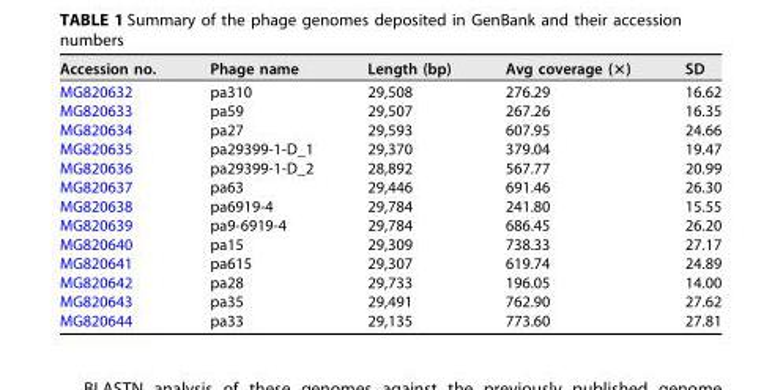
<table><thead><tr><td>Accession no.</td><td>Phage name</td><td>Length (bp)</td><td>Avg coverage (×)</td><td>SD</td></tr></thead><tbody><tr><td>MG820632</td><td>pa310</td><td>29,508</td><td>276.29</td><td>16.62</td></tr><tr><td>MG820633</td><td>pa59</td><td>29,507</td><td>267.26</td><td>16.35</td></tr><tr><td>MG820634</td><td>pa27</td><td>29,593</td><td>607.95</td><td>24.66</td></tr><tr><td>MG820635</td><td>pa29399-1-D_1</td><td>29,370</td><td>379.04</td><td>19.47</td></tr><tr><td>MG820636</td><td>pa29399-1-D_2</td><td>28,892</td><td>567.77</td><td>20.99</td></tr><tr><td>MG820637</td><td>pa63</td><td>29,446</td><td>691.46</td><td>26.30</td></tr><tr><td>MG820638</td><td>pa6919-4</td><td>29,784</td><td>241.80</td><td>15.55</td></tr><tr><td>MG820639</td><td>pa9-6919-4</td><td>29,784</td><td>686.45</td><td>26.20</td></tr><tr><td>MG820640</td><td>pa15</td><td>29,309</td><td>738.33</td><td>27.17</td></tr><tr><td>MG820641</td><td>pa615</td><td>29,307</td><td>619.74</td><td>24.89</td></tr><tr><td>MG820642</td><td>pa28</td><td>29,733</td><td>196.05</td><td>14.00</td></tr><tr><td>MG820643</td><td>pa35</td><td>29,491</td><td>762.90</td><td>27.62</td></tr><tr><td>MG820644</td><td>pa33</td><td>29,135</td><td>773.60</td><td>27.81</td></tr></tbody></table>